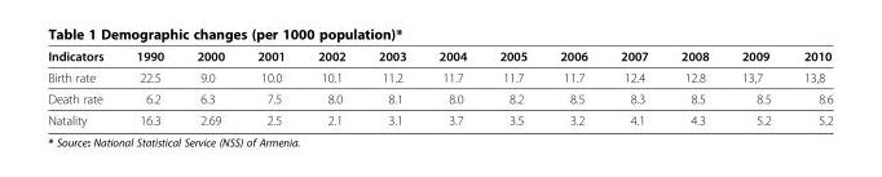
<table><thead><tr><td>Indicators</td><td>1990</td><td>2000</td><td>2001</td><td>2002</td><td>2003</td><td>2004</td><td>2005</td><td>2006</td><td>2007</td><td>2008</td><td>2009</td><td>2010</td></tr></thead><tbody><tr><td>Birth rate</td><td>22.5</td><td>9.0</td><td>10.0</td><td>10.1</td><td>11.2</td><td>11.7</td><td>11.7</td><td>11.7</td><td>12.4</td><td>12.8</td><td>13,7</td><td>13,8</td></tr><tr><td>Death rate</td><td>6.2</td><td>6.3</td><td>7.5</td><td>8.0</td><td>8.1</td><td>8.0</td><td>8.2</td><td>8.5</td><td>8.3</td><td>8.5</td><td>8.5</td><td>8.6</td></tr><tr><td>Natality</td><td>16.3</td><td>2.69</td><td>2.5</td><td>2.1</td><td>3.1</td><td>3.7</td><td>3.5</td><td>3.2</td><td>4.1</td><td>4.3</td><td>5.2</td><td>5.2</td></tr></tbody></table>